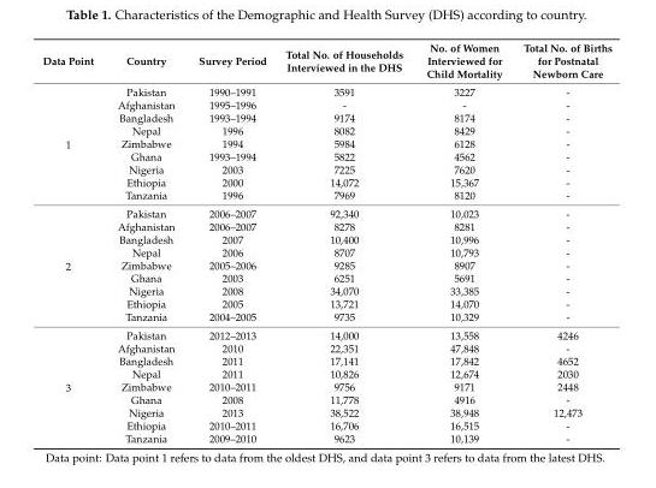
<table><thead><tr><td>Data Point</td><td>Country</td><td>Survey Period</td><td>Total No. of Households Interviewed in the DHS</td><td>No. of Women Interviewed for Child Mortality</td><td>Total No. of Births for Postnatal Newborn Care</td></tr></thead><tbody><tr><td rowspan="9">1</td><td>Pakistan</td><td>1990–1991</td><td>3591</td><td>3227</td><td>-</td></tr><tr><td>Afghanistan</td><td>1995–1996</td><td>-</td><td>-</td><td>-</td></tr><tr><td>Bangladesh</td><td>1993–1994</td><td>9174</td><td>8174</td><td>-</td></tr><tr><td>Nepal</td><td>1996</td><td>8082</td><td>8429</td><td>-</td></tr><tr><td>Zimbabwe</td><td>1994</td><td>5984</td><td>6128</td><td>-</td></tr><tr><td>Ghana</td><td>1993–1994</td><td>5822</td><td>4562</td><td>-</td></tr><tr><td>Nigeria</td><td>2003</td><td>7225</td><td>7620</td><td>-</td></tr><tr><td>Ethiopia</td><td>2000</td><td>14,072</td><td>15,367</td><td>-</td></tr><tr><td>Tanzania</td><td>1996</td><td>7969</td><td>8120</td><td>-</td></tr><tr><td rowspan="9">2</td><td>Pakistan</td><td>2006–2007</td><td>92,340</td><td>10,023</td><td>-</td></tr><tr><td>Afghanistan</td><td>2006–2007</td><td>8278</td><td>8281</td><td>-</td></tr><tr><td>Bangladesh</td><td>2007</td><td>10,400</td><td>10,996</td><td>-</td></tr><tr><td>Nepal</td><td>2006</td><td>8707</td><td>10,793</td><td>-</td></tr><tr><td>Zimbabwe</td><td>2005–2006</td><td>9285</td><td>8907</td><td>-</td></tr><tr><td>Ghana</td><td>2003</td><td>6251</td><td>5691</td><td>-</td></tr><tr><td>Nigeria</td><td>2008</td><td>34,070</td><td>33,385</td><td>-</td></tr><tr><td>Ethiopia</td><td>2005</td><td>13,721</td><td>14,070</td><td>-</td></tr><tr><td>Tanzania</td><td>2004–2005</td><td>9735</td><td>10,329</td><td>-</td></tr><tr><td rowspan="9">3</td><td>Pakistan</td><td>2012–2013</td><td>14,000</td><td>13,558</td><td>4246</td></tr><tr><td>Afghanistan</td><td>2010</td><td>22,351</td><td>47,848</td><td>-</td></tr><tr><td>Bangladesh</td><td>2011</td><td>17,141</td><td>17,842</td><td>4652</td></tr><tr><td>Nepal</td><td>2011</td><td>10,826</td><td>12,674</td><td>2030</td></tr><tr><td>Zimbabwe</td><td>2010–2011</td><td>9756</td><td>9171</td><td>2448</td></tr><tr><td>Ghana</td><td>2008</td><td>11,778</td><td>4916</td><td>-</td></tr><tr><td>Nigeria</td><td>2013</td><td>38,522</td><td>38,948</td><td>12,473</td></tr><tr><td>Ethiopia</td><td>2010–2011</td><td>16,706</td><td>16,515</td><td>-</td></tr><tr><td>Tanzania</td><td>2009–2010</td><td>9623</td><td>10,139</td><td>-</td></tr></tbody></table>